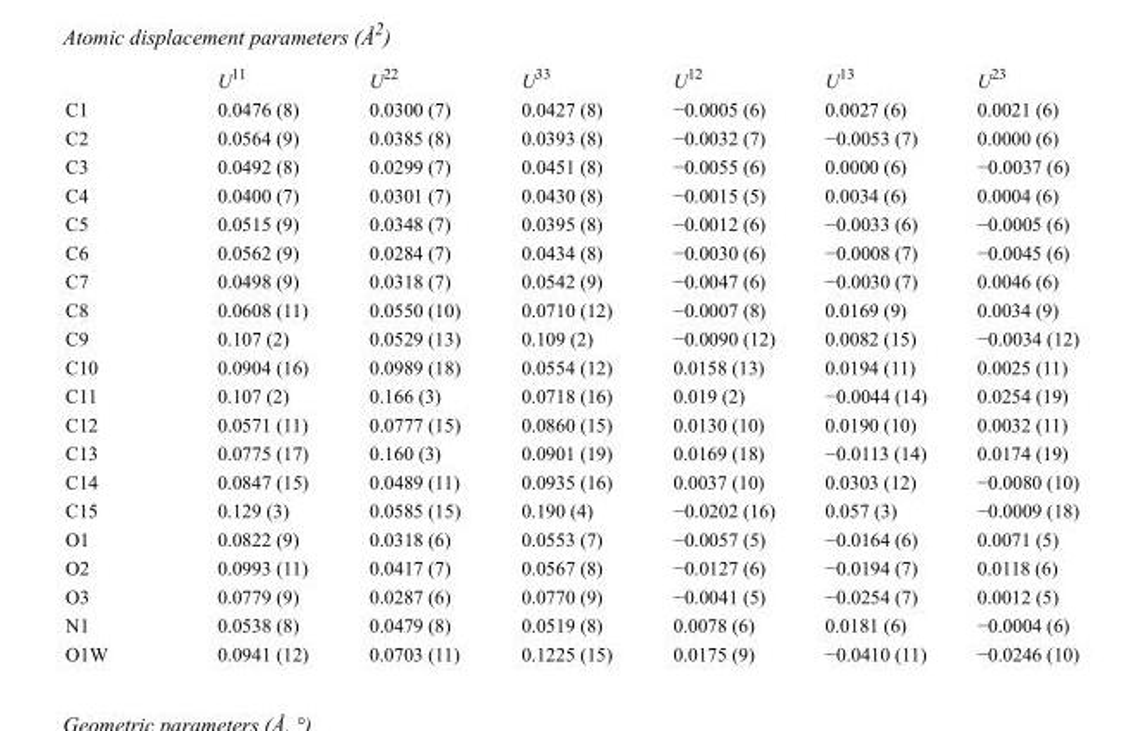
<table><thead><tr><td></td><td>U<sup>11</sup></td><td>U<sup>22</sup></td><td>U<sup>33</sup></td><td>U<sup>12</sup></td><td>U<sup>13</sup></td><td>U<sup>23</sup></td></tr></thead><tbody><tr><td>C1</td><td>0.0476 (8)</td><td>0.0300 (7)</td><td>0.0427 (8)</td><td>−0.0005 (6)</td><td>0.0027 (6)</td><td>0.0021 (6)</td></tr><tr><td>C2</td><td>0.0564 (9)</td><td>0.0385 (8)</td><td>0.0393 (8)</td><td>−0.0032 (7)</td><td>−0.0053 (7)</td><td>0.0000 (6)</td></tr><tr><td>C3</td><td>0.0492 (8)</td><td>0.0299 (7)</td><td>0.0451 (8)</td><td>−0.0055 (6)</td><td>0.0000 (6)</td><td>−0.0037 (6)</td></tr><tr><td>C4</td><td>0.0400 (7)</td><td>0.0301 (7)</td><td>0.0430 (8)</td><td>−0.0015 (5)</td><td>0.0034 (6)</td><td>0.0004 (6)</td></tr><tr><td>C5</td><td>0.0515 (9)</td><td>0.0348 (7)</td><td>0.0395 (8)</td><td>−0.0012 (6)</td><td>−0.0033 (6)</td><td>−0.0005 (6)</td></tr><tr><td>C6</td><td>0.0562 (9)</td><td>0.0284 (7)</td><td>0.0434 (8)</td><td>−0.0030 (6)</td><td>−0.0008 (7)</td><td>−0.0045 (6)</td></tr><tr><td>C7</td><td>0.0498 (9)</td><td>0.0318 (7)</td><td>0.0542 (9)</td><td>−0.0047 (6)</td><td>−0.0030 (7)</td><td>0.0046 (6)</td></tr><tr><td>C8</td><td>0.0608 (11)</td><td>0.0550 (10)</td><td>0.0710 (12)</td><td>−0.0007 (8)</td><td>0.0169 (9)</td><td>0.0034 (9)</td></tr><tr><td>C9</td><td>0.107 (2)</td><td>0.0529 (13)</td><td>0.109 (2)</td><td>−0.0090 (12)</td><td>0.0082 (15)</td><td>−0.0034 (12)</td></tr><tr><td>C10</td><td>0.0904 (16)</td><td>0.0989 (18)</td><td>0.0554 (12)</td><td>0.0158 (13)</td><td>0.0194 (11)</td><td>0.0025 (11)</td></tr><tr><td>C11</td><td>0.107 (2)</td><td>0.166 (3)</td><td>0.0718 (16)</td><td>0.019 (2)</td><td>−0.0044 (14)</td><td>0.0254 (19)</td></tr><tr><td>C12</td><td>0.0571 (11)</td><td>0.0777 (15)</td><td>0.0860 (15)</td><td>0.0130 (10)</td><td>0.0190 (10)</td><td>0.0032 (11)</td></tr><tr><td>C13</td><td>0.0775 (17)</td><td>0.160 (3)</td><td>0.0901 (19)</td><td>0.0169 (18)</td><td>−0.0113 (14)</td><td>0.0174 (19)</td></tr><tr><td>C14</td><td>0.0847 (15)</td><td>0.0489 (11)</td><td>0.0935 (16)</td><td>0.0037 (10)</td><td>0.0303 (12)</td><td>−0.0080 (10)</td></tr><tr><td>C15</td><td>0.129 (3)</td><td>0.0585 (15)</td><td>0.190 (4)</td><td>−0.0202 (16)</td><td>0.057 (3)</td><td>−0.0009 (18)</td></tr><tr><td>O1</td><td>0.0822 (9)</td><td>0.0318 (6)</td><td>0.0553 (7)</td><td>−0.0057 (5)</td><td>−0.0164 (6)</td><td>0.0071 (5)</td></tr><tr><td>O2</td><td>0.0993 (11)</td><td>0.0417 (7)</td><td>0.0567 (8)</td><td>−0.0127 (6)</td><td>−0.0194 (7)</td><td>0.0118 (6)</td></tr><tr><td>O3</td><td>0.0779 (9)</td><td>0.0287 (6)</td><td>0.0770 (9)</td><td>−0.0041 (5)</td><td>−0.0254 (7)</td><td>0.0012 (5)</td></tr><tr><td>N1</td><td>0.0538 (8)</td><td>0.0479 (8)</td><td>0.0519 (8)</td><td>0.0078 (6)</td><td>0.0181 (6)</td><td>−0.0004 (6)</td></tr><tr><td>O1W</td><td>0.0941 (12)</td><td>0.0703 (11)</td><td>0.1225 (15)</td><td>0.0175 (9)</td><td>−0.0410 (11)</td><td>−0.0246 (10)</td></tr></tbody></table>